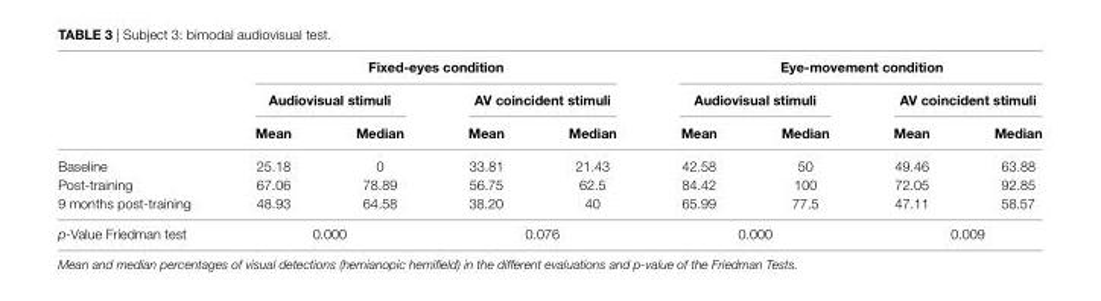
<table><thead><tr><td rowspan="3"></td><td colspan="4">Fixed-eyes condition</td><td colspan="4">eye-movement condition</td></tr><tr><td colspan="2">Audiovisual stimuli</td><td colspan="2">AV coincident stimuli</td><td colspan="2">Audiovisual stimuli</td><td colspan="2">AV coincident stimuli</td></tr><tr><td>Mean</td><td>Median</td><td>Mean</td><td>Median</td><td>Mean</td><td>Median</td><td>Mean</td><td>Median</td></tr></thead><tbody><tr><td>Baseline</td><td>25.18</td><td>0</td><td>33.81</td><td>21.43</td><td>42.58</td><td>50</td><td>49.46</td><td>63.88</td></tr><tr><td>Post-training</td><td>67.06</td><td>78.89</td><td>56.75</td><td>62.5</td><td>84.42</td><td>100</td><td>72.05</td><td>92.85</td></tr><tr><td>9 months post-training</td><td>48.93</td><td>64.58</td><td>38.20</td><td>40</td><td>65.99</td><td>77.5</td><td>47.11</td><td>58.57</td></tr><tr><td>p-Value Friedman test</td><td colspan="2">0.000</td><td colspan="2">0.076</td><td colspan="2">0.000</td><td colspan="2">0.009</td></tr></tbody></table>